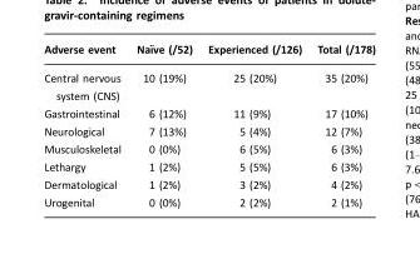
<table><thead><tr><td>Adverse event</td><td>Naı¨ve (/52)</td><td>Experienced (/126)</td><td>Total (/178)</td></tr></thead><tbody><tr><td>Central nervous system (CNS)</td><td>10 (19%)</td><td>25 (20%)</td><td>35 (20%)</td></tr><tr><td>Gastrointestinal</td><td>6 (12%)</td><td>11 (9%)</td><td>17 (10%)</td></tr><tr><td>Neurological</td><td>7 (13%)</td><td>5 (4%)</td><td>12 (7%)</td></tr><tr><td>Musculoskeletal</td><td>0 (0%)</td><td>6 (5%)</td><td>6 (3%)</td></tr><tr><td>Lethargy</td><td>1 (2%)</td><td>5 (5%)</td><td>6 (3%)</td></tr><tr><td>Dermatological</td><td>1 (2%)</td><td>3 (2%)</td><td>4 (2%)</td></tr><tr><td>Urogenital</td><td>0 (0%)</td><td>2 (2%)</td><td>2 (1%)</td></tr></tbody></table>